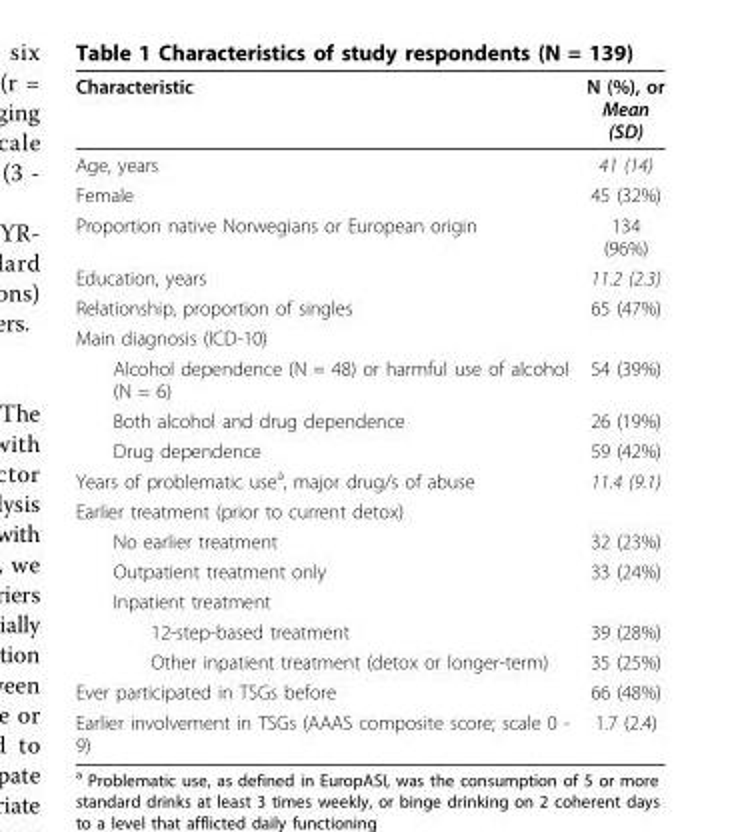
<table><thead><tr><td>Characteristic</td><td>N (%), or Mean (SD)</td></tr></thead><tbody><tr><td>Age, years</td><td>41 (14)</td></tr><tr><td>Female</td><td>45 (32%)</td></tr><tr><td>Proportion native Norwegians or European origin</td><td>134 (96%)</td></tr><tr><td>Education, years</td><td>11.2 (2.3)</td></tr><tr><td>Relationship, proportion of singles</td><td>65 (47%)</td></tr><tr><td colspan="2">Main diagnosis (ICD-10)</td></tr><tr><td>Alcohol dependence (N = 48) or harmful use of alcohol (N = 6)</td><td>54 (39%)</td></tr><tr><td>Both alcohol and drug dependence</td><td>26 (19%)</td></tr><tr><td>Drug dependence</td><td>59 (42%)</td></tr><tr><td>Years of problematic use<sup>a</sup>, major drug/s of abuse</td><td>11.4 (9.1)</td></tr><tr><td colspan="2">Earlier treatment (prior to current detox)</td></tr><tr><td>No earlier treatment</td><td>32 (23%)</td></tr><tr><td>Outpatient treatment only</td><td>33 (24%)</td></tr><tr><td colspan="2">Inpatient treatment</td></tr><tr><td>12-step-based treatment</td><td>39 (28%)</td></tr><tr><td>Other inpatient treatment (detox or longer-term)</td><td>35 (25%)</td></tr><tr><td>Ever participated in TSGs before</td><td>66 (48%)</td></tr><tr><td>Earlier involvement in TSGs (AAAS composite score; scale 0 - 9)</td><td>1.7 (2.4)</td></tr></tbody></table>